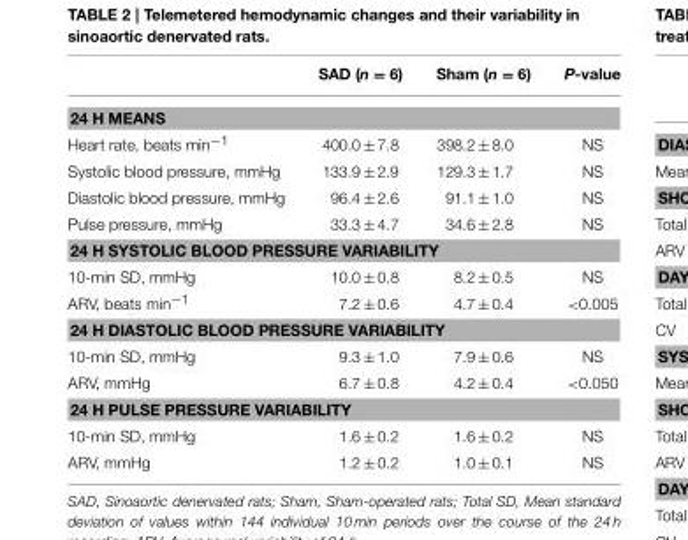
<table><thead><tr><td></td><td>SAD (n = 6)</td><td>Sham (n = 6)</td><td>P-value</td></tr></thead><tbody><tr><td colspan="4">24 H MEANS</td></tr><tr><td>Heart rate, beats min<sup>−1</sup></td><td>400.0 ± 7.8</td><td>398.2 ± 8.0</td><td>NS</td></tr><tr><td>Systolic blood pressure, mmHg</td><td>133.9 ± 2.9</td><td>129.3 ± 1.7</td><td>NS</td></tr><tr><td>Diastolic blood pressure, mmHg</td><td>96.4 ± 2.6</td><td>91.1 ± 1.0</td><td>NS</td></tr><tr><td>Pulse pressure, mmHg</td><td>33.3 ± 4.7</td><td>34.6 ± 2.8</td><td>NS</td></tr><tr><td colspan="4">24 H SYSTOLIC BLOOD PRESSURE VARIABILITY</td></tr><tr><td>10-min SD, mmHg</td><td>10.0 ± 0.8</td><td>8.2 ± 0.5</td><td>NS</td></tr><tr><td>ARV, beats min<sup>−1</sup></td><td>7.2 ± 0.6</td><td>4.7 ± 0.4</td><td>&lt;0.005</td></tr><tr><td colspan="4">24 H DIASTOLIC BLOOD PRESSURE VARIABILITY</td></tr><tr><td>10-min SD, mmHg</td><td>9.3 ± 1.0</td><td>7.9 ± 0.6</td><td>NS</td></tr><tr><td>ARV, mmHg</td><td>6.7 ± 0.8</td><td>4.2 ± 0.4</td><td>&lt;0.050</td></tr><tr><td colspan="4">24 H PULSE PRESSURE VARIABILITY</td></tr><tr><td>10-min SD, mmHg</td><td>1.6 ± 0.2</td><td>1.6 ± 0.2</td><td>NS</td></tr><tr><td>ARV, mmHg</td><td>1.2 ± 0.2</td><td>1.0 ± 0.1</td><td>NS</td></tr></tbody></table>